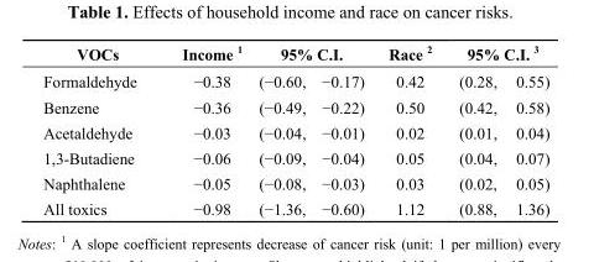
<table><thead><tr><td rowspan="2">VOCs Formaldehyde</td><td rowspan="2">Income <sup>1</sup> −0.38</td><td colspan="2">95% C.I.</td><td rowspan="2">Race <sup>2</sup> 0.42</td><td colspan="2">95% C.I. <sup>3</sup></td></tr><tr><td>(−0.60,</td><td>−0.17)</td><td>(0.28,</td><td>0.55)</td></tr></thead><tbody><tr><td>Benzene</td><td>−0.36</td><td>(−0.49,</td><td>−0.22)</td><td>0.50</td><td>(0.42,</td><td>0.58)</td></tr><tr><td>Acetaldehyde</td><td>−0.03</td><td>(−0.04,</td><td>−0.01)</td><td>0.02</td><td>(0.01,</td><td>0.04)</td></tr><tr><td>1,3-Butadiene</td><td>−0.06</td><td>(−0.09,</td><td>−0.04)</td><td>0.05</td><td>(0.04,</td><td>0.07)</td></tr><tr><td>Naphthalene</td><td>−0.05</td><td>(−0.08,</td><td>−0.03)</td><td>0.03</td><td>(0.02,</td><td>0.05)</td></tr><tr><td>All toxics</td><td>−0.98</td><td>(−1.36,</td><td>−0.60)</td><td>1.12</td><td>(0.88,</td><td>1.36)</td></tr></tbody></table>